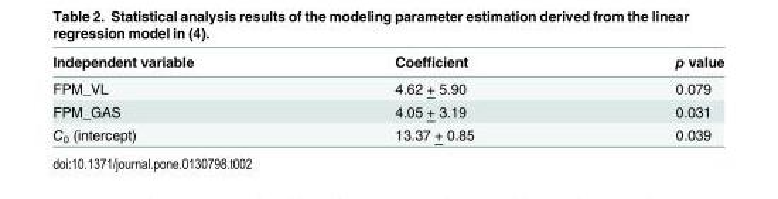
<table><thead><tr><td>Independent variable</td><td>Coefficient</td><td>p value</td></tr></thead><tbody><tr><td>FPM_VL</td><td>4.62 + 5.90</td><td>0.079</td></tr><tr><td>FPM_GAS</td><td>4.05 + 3.19</td><td>0.031</td></tr><tr><td>C<sub>0</sub> (intercept)</td><td>13.37 + 0.85</td><td>0.039</td></tr></tbody></table>